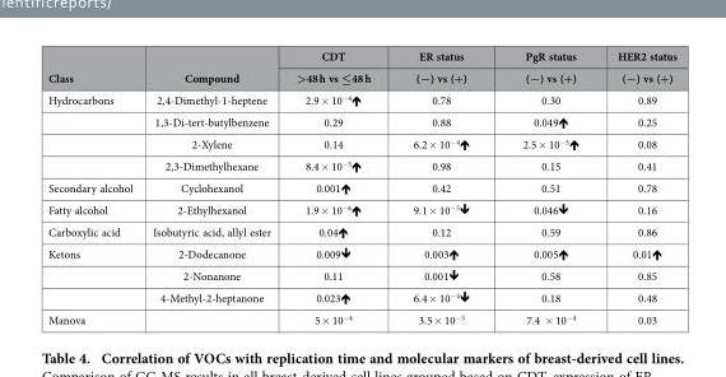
<table><thead><tr><td rowspan="2">Class</td><td rowspan="2">Compound</td><td rowspan="2">CDT &gt;48 h vs ≤48 h</td><td rowspan="2">ER status (−) vs (+)</td><td rowspan="2">PgR status (−) vs (+)</td><td rowspan="2">HER2 status (−) vs (+)</td></tr><tr></tr></thead><tbody><tr><td rowspan="4">Hydrocarbons</td><td>2,4-Dimethyl-1-heptene</td><td>2.9 × 10−4</td><td>0.78</td><td>0.30</td><td>0.89</td></tr><tr><td>1,3-Di-tert-butylbenzene</td><td>0.29</td><td>0.88</td><td>0.049</td><td>0.25</td></tr><tr><td>2-Xylene</td><td>0.14</td><td>6.2 × 10−4</td><td>2.5 × 10−5</td><td>0.08</td></tr><tr><td>2,3-Dimethylhexane</td><td>8.4 × 10−5</td><td>0.98</td><td>0.15</td><td>0.41</td></tr><tr><td>Secondary alcohol</td><td>Cyclohexanol</td><td>0.001</td><td>0.42</td><td>0.51</td><td>0.78</td></tr><tr><td>Fatty alcohol</td><td>2-Ethylhexanol</td><td>1.9 × 10−6</td><td>9.1 × 10−5</td><td>0.046</td><td>0.16</td></tr><tr><td>Carboxylic acid</td><td>Isobutyric acid, allyl ester</td><td>0.04</td><td>0.12</td><td>0.59</td><td>0.86</td></tr><tr><td rowspan="3">Ketons</td><td>2-Dodecanone</td><td>0.009</td><td>0.003</td><td>0.005</td><td>0.01</td></tr><tr><td>2-Nonanone</td><td>0.11</td><td>0.001</td><td>0.58</td><td>0.85</td></tr><tr><td>4-Methyl-2-heptanone</td><td>0.023</td><td>6.4 × 10−4</td><td>0.18</td><td>0.48</td></tr><tr><td>Manova</td><td></td><td>5 × 10<sup>−4</sup></td><td>3.5 × 10<sup>−5</sup></td><td>7.4 × 10<sup>−4</sup></td><td>0.03</td></tr></tbody></table>